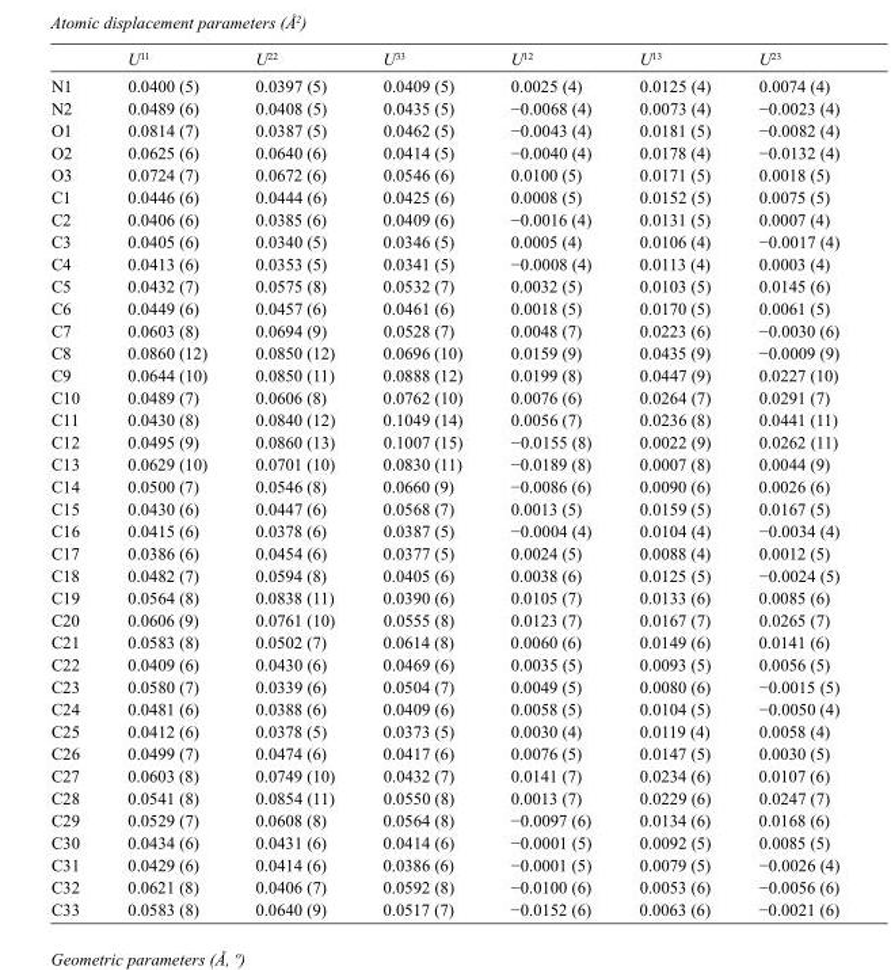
<table><thead><tr><td></td><td>U<sup>11</sup></td><td>U<sup>22</sup></td><td>U<sup>33</sup></td><td>U<sup>12</sup></td><td>U<sup>13</sup></td><td>U<sup>23</sup></td></tr></thead><tbody><tr><td>N1</td><td>0.0400 (5)</td><td>0.0397 (5)</td><td>0.0409 (5)</td><td>0.0025 (4)</td><td>0.0125 (4)</td><td>0.0074 (4)</td></tr><tr><td>N2</td><td>0.0489 (6)</td><td>0.0408 (5)</td><td>0.0435 (5)</td><td>−0.0068 (4)</td><td>0.0073 (4)</td><td>−0.0023 (4)</td></tr><tr><td>O1</td><td>0.0814 (7)</td><td>0.0387 (5)</td><td>0.0462 (5)</td><td>−0.0043 (4)</td><td>0.0181 (5)</td><td>−0.0082 (4)</td></tr><tr><td>O2</td><td>0.0625 (6)</td><td>0.0640 (6)</td><td>0.0414 (5)</td><td>−0.0040 (4)</td><td>0.0178 (4)</td><td>−0.0132 (4)</td></tr><tr><td>O3</td><td>0.0724 (7)</td><td>0.0672 (6)</td><td>0.0546 (6)</td><td>0.0100 (5)</td><td>0.0171 (5)</td><td>0.0018 (5)</td></tr><tr><td>C1</td><td>0.0446 (6)</td><td>0.0444 (6)</td><td>0.0425 (6)</td><td>0.0008 (5)</td><td>0.0152 (5)</td><td>0.0075 (5)</td></tr><tr><td>C2</td><td>0.0406 (6)</td><td>0.0385 (6)</td><td>0.0409 (6)</td><td>−0.0016 (4)</td><td>0.0131 (5)</td><td>0.0007 (4)</td></tr><tr><td>C3</td><td>0.0405 (6)</td><td>0.0340 (5)</td><td>0.0346 (5)</td><td>0.0005 (4)</td><td>0.0106 (4)</td><td>−0.0017 (4)</td></tr><tr><td>C4</td><td>0.0413 (6)</td><td>0.0353 (5)</td><td>0.0341 (5)</td><td>−0.0008 (4)</td><td>0.0113 (4)</td><td>0.0003 (4)</td></tr><tr><td>C5</td><td>0.0432 (7)</td><td>0.0575 (8)</td><td>0.0532 (7)</td><td>0.0032 (5)</td><td>0.0103 (5)</td><td>0.0145 (6)</td></tr><tr><td>C6</td><td>0.0449 (6)</td><td>0.0457 (6)</td><td>0.0461 (6)</td><td>0.0018 (5)</td><td>0.0170 (5)</td><td>0.0061 (5)</td></tr><tr><td>C7</td><td>0.0603 (8)</td><td>0.0694 (9)</td><td>0.0528 (7)</td><td>0.0048 (7)</td><td>0.0223 (6)</td><td>−0.0030 (6)</td></tr><tr><td>C8</td><td>0.0860 (12)</td><td>0.0850 (12)</td><td>0.0696 (10)</td><td>0.0159 (9)</td><td>0.0435 (9)</td><td>−0.0009 (9)</td></tr><tr><td>C9</td><td>0.0644 (10)</td><td>0.0850 (11)</td><td>0.0888 (12)</td><td>0.0199 (8)</td><td>0.0447 (9)</td><td>0.0227 (10)</td></tr><tr><td>C10</td><td>0.0489 (7)</td><td>0.0606 (8)</td><td>0.0762 (10)</td><td>0.0076 (6)</td><td>0.0264 (7)</td><td>0.0291 (7)</td></tr><tr><td>C11</td><td>0.0430 (8)</td><td>0.0840 (12)</td><td>0.1049 (14)</td><td>0.0056 (7)</td><td>0.0236 (8)</td><td>0.0441 (11)</td></tr><tr><td>C12</td><td>0.0495 (9)</td><td>0.0860 (13)</td><td>0.1007 (15)</td><td>−0.0155 (8)</td><td>0.0022 (9)</td><td>0.0262 (11)</td></tr><tr><td>C13</td><td>0.0629 (10)</td><td>0.0701 (10)</td><td>0.0830 (11)</td><td>−0.0189 (8)</td><td>0.0007 (8)</td><td>0.0044 (9)</td></tr><tr><td>C14</td><td>0.0500 (7)</td><td>0.0546 (8)</td><td>0.0660 (9)</td><td>−0.0086 (6)</td><td>0.0090 (6)</td><td>0.0026 (6)</td></tr><tr><td>C15</td><td>0.0430 (6)</td><td>0.0447 (6)</td><td>0.0568 (7)</td><td>0.0013 (5)</td><td>0.0159 (5)</td><td>0.0167 (5)</td></tr><tr><td>C16</td><td>0.0415 (6)</td><td>0.0378 (6)</td><td>0.0387 (5)</td><td>−0.0004 (4)</td><td>0.0104 (4)</td><td>−0.0034 (4)</td></tr><tr><td>C17</td><td>0.0386 (6)</td><td>0.0454 (6)</td><td>0.0377 (5)</td><td>0.0024 (5)</td><td>0.0088 (4)</td><td>0.0012 (5)</td></tr><tr><td>C18</td><td>0.0482 (7)</td><td>0.0594 (8)</td><td>0.0405 (6)</td><td>0.0038 (6)</td><td>0.0125 (5)</td><td>−0.0024 (5)</td></tr><tr><td>C19</td><td>0.0564 (8)</td><td>0.0838 (11)</td><td>0.0390 (6)</td><td>0.0105 (7)</td><td>0.0133 (6)</td><td>0.0085 (6)</td></tr><tr><td>C20</td><td>0.0606 (9)</td><td>0.0761 (10)</td><td>0.0555 (8)</td><td>0.0123 (7)</td><td>0.0167 (7)</td><td>0.0265 (7)</td></tr><tr><td>C21</td><td>0.0583 (8)</td><td>0.0502 (7)</td><td>0.0614 (8)</td><td>0.0060 (6)</td><td>0.0149 (6)</td><td>0.0141 (6)</td></tr><tr><td>C22</td><td>0.0409 (6)</td><td>0.0430 (6)</td><td>0.0469 (6)</td><td>0.0035 (5)</td><td>0.0093 (5)</td><td>0.0056 (5)</td></tr><tr><td>C23</td><td>0.0580 (7)</td><td>0.0339 (6)</td><td>0.0504 (7)</td><td>0.0049 (5)</td><td>0.0080 (6)</td><td>−0.0015 (5)</td></tr><tr><td>C24</td><td>0.0481 (6)</td><td>0.0388 (6)</td><td>0.0409 (6)</td><td>0.0058 (5)</td><td>0.0104 (5)</td><td>−0.0050 (4)</td></tr><tr><td>C25</td><td>0.0412 (6)</td><td>0.0378 (5)</td><td>0.0373 (5)</td><td>0.0030 (4)</td><td>0.0119 (4)</td><td>0.0058 (4)</td></tr><tr><td>C26</td><td>0.0499 (7)</td><td>0.0474 (6)</td><td>0.0417 (6)</td><td>0.0076 (5)</td><td>0.0147 (5)</td><td>0.0030 (5)</td></tr><tr><td>C27</td><td>0.0603 (8)</td><td>0.0749 (10)</td><td>0.0432 (7)</td><td>0.0141 (7)</td><td>0.0234 (6)</td><td>0.0107 (6)</td></tr><tr><td>C28</td><td>0.0541 (8)</td><td>0.0854 (11)</td><td>0.0550 (8)</td><td>0.0013 (7)</td><td>0.0229 (6)</td><td>0.0247 (7)</td></tr><tr><td>C29</td><td>0.0529 (7)</td><td>0.0608 (8)</td><td>0.0564 (8)</td><td>−0.0097 (6)</td><td>0.0134 (6)</td><td>0.0168 (6)</td></tr><tr><td>C30</td><td>0.0434 (6)</td><td>0.0431 (6)</td><td>0.0414 (6)</td><td>−0.0001 (5)</td><td>0.0092 (5)</td><td>0.0085 (5)</td></tr><tr><td>C31</td><td>0.0429 (6)</td><td>0.0414 (6)</td><td>0.0386 (6)</td><td>−0.0001 (5)</td><td>0.0079 (5)</td><td>−0.0026 (4)</td></tr><tr><td>C32</td><td>0.0621 (8)</td><td>0.0406 (7)</td><td>0.0592 (8)</td><td>−0.0100 (6)</td><td>0.0053 (6)</td><td>−0.0056 (6)</td></tr><tr><td>C33</td><td>0.0583 (8)</td><td>0.0640 (9)</td><td>0.0517 (7)</td><td>−0.0152 (6)</td><td>0.0063 (6)</td><td>−0.0021 (6)</td></tr></tbody></table>